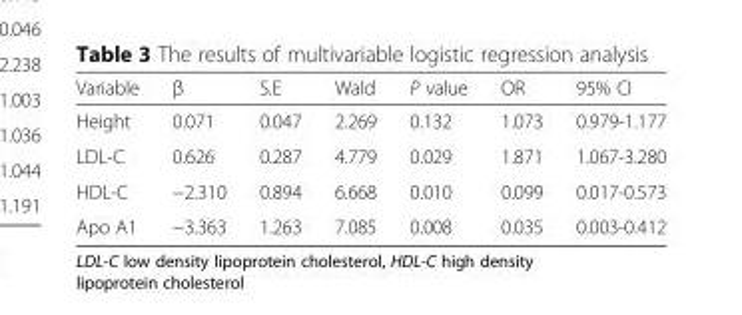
<table><thead><tr><td>Variable</td><td>β</td><td>S.E</td><td>Wald</td><td>P value</td><td>OR</td><td>95% CI</td></tr></thead><tbody><tr><td>Height</td><td>0.071</td><td>0.047</td><td>2.269</td><td>0.132</td><td>1.073</td><td>0.979-1.177</td></tr><tr><td>LDL-C</td><td>0.626</td><td>0.287</td><td>4.779</td><td>0.029</td><td>1.871</td><td>1.067-3.280</td></tr><tr><td>HDL-C</td><td>−2.310</td><td>0.894</td><td>6.668</td><td>0.010</td><td>0.099</td><td>0.017-0.573</td></tr><tr><td>Apo A1</td><td>−3.363</td><td>1.263</td><td>7.085</td><td>0.008</td><td>0.035</td><td>0.003-0.412</td></tr></tbody></table>